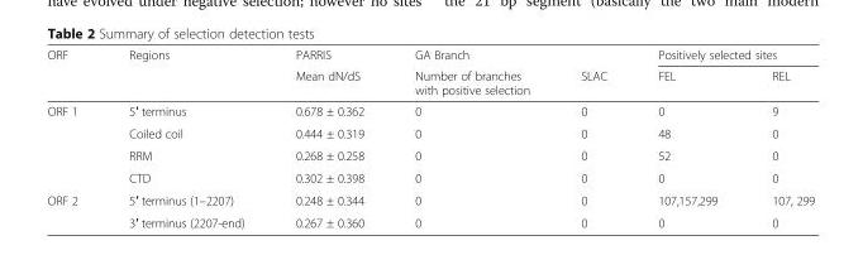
<table><thead><tr><td rowspan="2">ORF</td><td rowspan="2">Regions</td><td rowspan="2">PARRIS Mean dN/dS</td><td rowspan="2">GA Branch Number of branches with positive selection</td><td rowspan="2">SLAC</td><td colspan="2">Positively selected sites</td></tr><tr><td>FEL</td><td>REL</td></tr></thead><tbody><tr><td rowspan="4">ORF 1</td><td>5′ terminus</td><td>0.678 ± 0.362</td><td>0</td><td>0</td><td>0</td><td>9</td></tr><tr><td>Coiled coil</td><td>0.444 ± 0.319</td><td>0</td><td>0</td><td>48</td><td>0</td></tr><tr><td>RRM</td><td>0.268 ± 0.258</td><td>0</td><td>0</td><td>52</td><td>0</td></tr><tr><td>CTD</td><td>0.302 ± 0.398</td><td>0</td><td>0</td><td>0</td><td>0</td></tr><tr><td rowspan="2">ORF 2</td><td>5′ terminus (1–2207)</td><td>0.248 ± 0.344</td><td>0</td><td>0</td><td>107,157,299</td><td>107, 299</td></tr><tr><td>3′ terminus (2207-end)</td><td>0.267 ± 0.360</td><td>0</td><td>0</td><td>0</td><td>0</td></tr></tbody></table>